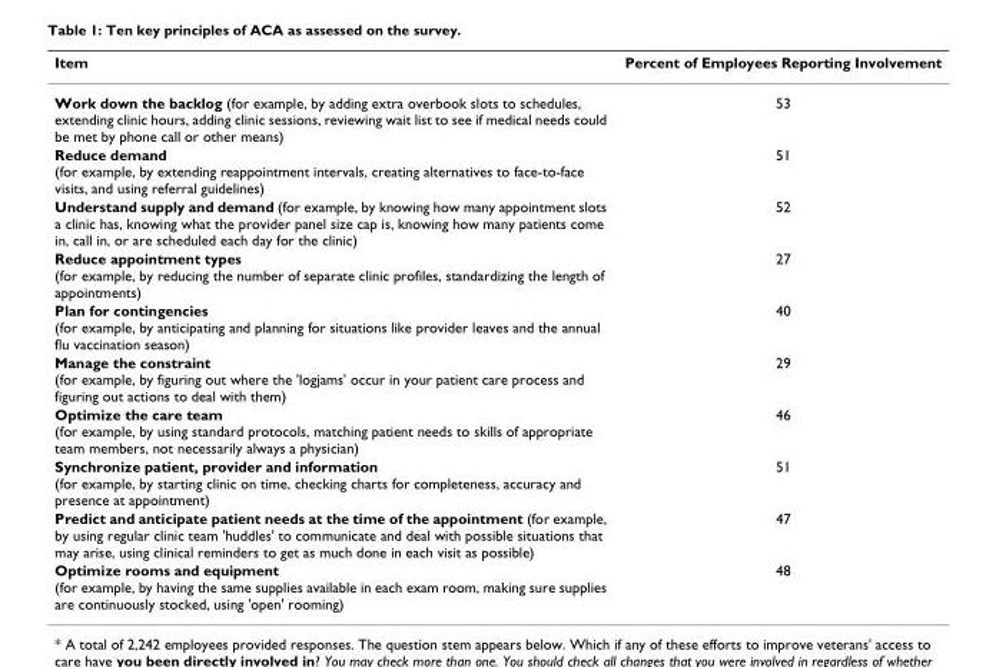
<table><thead><tr><td>Item</td><td>Percent of Employees Reporting Involvement</td></tr></thead><tbody><tr><td>Work down the backlog (for example, by adding extra overbook slots to schedules, extending clinic hours, adding clinic sessions, reviewing wait list to see if medical needs could be met by phone call or other means)</td><td>53</td></tr><tr><td>Reduce demand (for example, by extending reappointment intervals, creating alternatives to face-to-face visits, and using referral guidelines)</td><td>51</td></tr><tr><td>Understand supply and demand (for example, by knowing how many appointment slots a clinic has, knowing what the provider panel size cap is, knowing how many patients come in, call in, or are scheduled each day for the clinic)</td><td>52</td></tr><tr><td>Reduce appointment types (for example, by reducing the number of separate clinic profiles, standardizing the length of appointments)</td><td>27</td></tr><tr><td>Plan for contingencies (for example, by anticipating and planning for situations like provider leaves and the annual flu vaccination season)</td><td>40</td></tr><tr><td>Manage the constraint (for example, by figuring out where the &#x27;logjams&#x27; occur in your patient care process and figuring out actions to deal with them)</td><td>29</td></tr><tr><td>Optimize the care team (for example, by using standard protocols, matching patient needs to skills of appropriate team members, not necessarily always a physician)</td><td>46</td></tr><tr><td>Synchronize patient, provider and information (for example, by starting clinic on time, checking charts for completeness, accuracy and presence at appointment)</td><td>51</td></tr><tr><td>Predict and anticipate patient needs at the time of the appointment (for example, by using regular clinic team &#x27;huddles&#x27; to communicate and deal with possible situations that may arise, using clinical reminders to get as much done in each visit as possible)</td><td>47</td></tr><tr><td>Optimize rooms and equipment (for example, by having the same supplies available in each exam room, making sure supplies are continuously stocked, using &#x27;open&#x27; rooming)</td><td>48</td></tr></tbody></table>